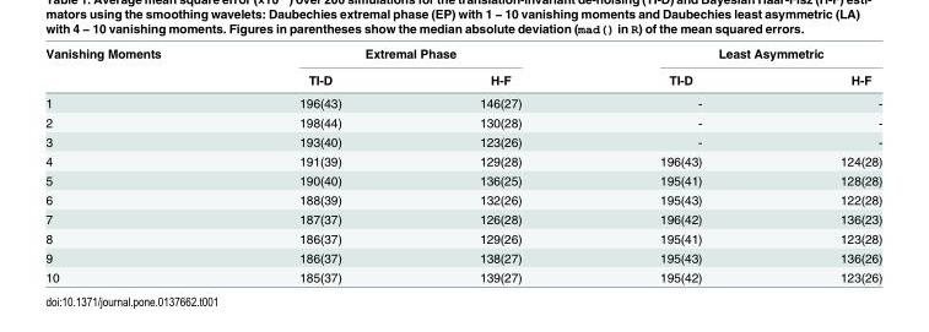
<table><thead><tr><td rowspan="2">Vanishing Moments</td><td colspan="2">Extremal Phase</td><td colspan="2">Least Asymmetric</td></tr><tr><td>TI-D</td><td>H-F</td><td>TI-D</td><td>H-F</td></tr></thead><tbody><tr><td>1</td><td>196(43)</td><td>146(27)</td><td>-</td><td>-</td></tr><tr><td>2</td><td>198(44)</td><td>130(28)</td><td>-</td><td>-</td></tr><tr><td>3</td><td>193(40)</td><td>123(26)</td><td>-</td><td>-</td></tr><tr><td>4</td><td>191(39)</td><td>129(28)</td><td>196(43)</td><td>124(28)</td></tr><tr><td>5</td><td>190(40)</td><td>136(25)</td><td>195(41)</td><td>128(28)</td></tr><tr><td>6</td><td>188(39)</td><td>132(26)</td><td>195(43)</td><td>122(28)</td></tr><tr><td>7</td><td>187(37)</td><td>126(28)</td><td>196(42)</td><td>136(23)</td></tr><tr><td>8</td><td>186(37)</td><td>129(26)</td><td>195(41)</td><td>123(28)</td></tr><tr><td>9</td><td>186(37)</td><td>138(27)</td><td>195(43)</td><td>136(26)</td></tr><tr><td>10</td><td>185(37)</td><td>139(27)</td><td>195(42)</td><td>123(26)</td></tr></tbody></table>